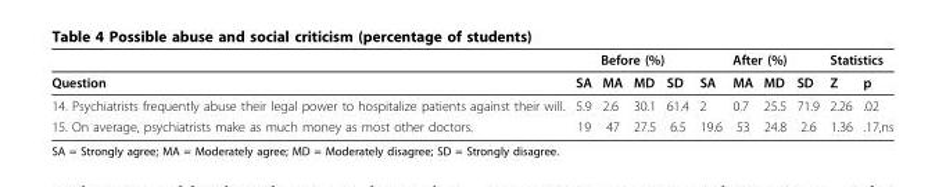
<table><thead><tr><td rowspan="2">Question</td><td colspan="4">Before (%)</td><td colspan="4">After (%)</td><td colspan="2">Statistics</td></tr><tr><td>SA</td><td>MA</td><td>MD</td><td>SD</td><td>SA</td><td>MA</td><td>MD</td><td>SD</td><td>Z</td><td>p</td></tr></thead><tbody><tr><td>14. Psychiatrists frequently abuse their legal power to hospitalize patients against their will.</td><td>5.9</td><td>2.6</td><td>30.1</td><td>61.4</td><td>2</td><td>0.7</td><td>25.5</td><td>71.9</td><td>2.26</td><td>.02</td></tr><tr><td>15. On average, psychiatrists make as much money as most other doctors.</td><td>19</td><td>47</td><td>27.5</td><td>6.5</td><td>19.6</td><td>53</td><td>24.8</td><td>2.6</td><td>1.36</td><td>.17,ns</td></tr></tbody></table>